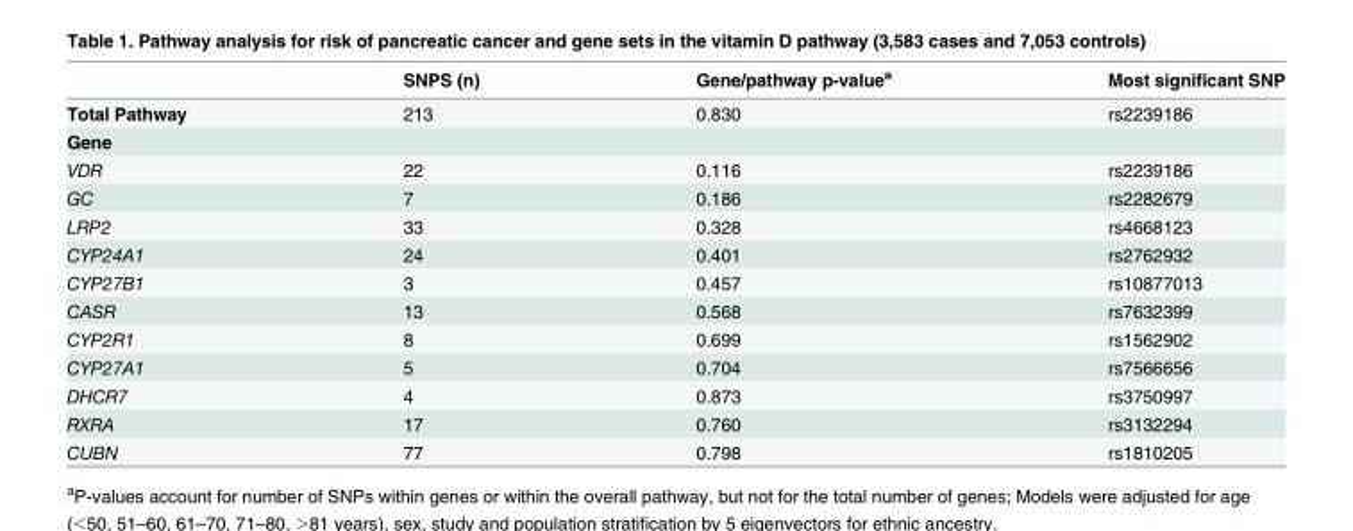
<table><thead><tr><td></td><td>SNPS (n)</td><td>Gene/pathway p-value<sup>a</sup></td><td>Most significant SNP</td></tr></thead><tbody><tr><td>Total Pathway</td><td>213</td><td>0.830</td><td>rs2239186</td></tr><tr><td colspan="4">Gene</td></tr><tr><td>VDR</td><td>22</td><td>0.116</td><td>rs2239186</td></tr><tr><td>GC</td><td>7</td><td>0.186</td><td>rs2282679</td></tr><tr><td>LRP2</td><td>33</td><td>0.328</td><td>rs4668123</td></tr><tr><td>CYP24A1</td><td>24</td><td>0.401</td><td>rs2762932</td></tr><tr><td>CYP27B1</td><td>3</td><td>0.457</td><td>rs10877013</td></tr><tr><td>CASR</td><td>13</td><td>0.568</td><td>rs7632399</td></tr><tr><td>CYP2R1</td><td>8</td><td>0.699</td><td>rs1562902</td></tr><tr><td>CYP27A1</td><td>5</td><td>0.704</td><td>rs7566656</td></tr><tr><td>DHCR7</td><td>4</td><td>0.873</td><td>rs3750997</td></tr><tr><td>RXRA</td><td>17</td><td>0.760</td><td>rs3132294</td></tr><tr><td>CUBN</td><td>77</td><td>0.798</td><td>rs1810205</td></tr></tbody></table>